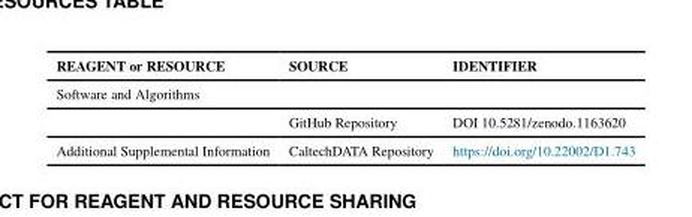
<table><thead><tr><td>REAGENT or RESOURCE</td><td>SOURCE</td><td>IDENTIFIER</td></tr></thead><tbody><tr><td colspan="3">Software and Algorithms</td></tr><tr><td></td><td>GitHub Repository</td><td>DOI 10.5281/zenodo.1163620</td></tr><tr><td>Additional Supplemental Information</td><td>CaltechDATA Repository</td><td>https://doi.org/10.22002/D1.743</td></tr></tbody></table>